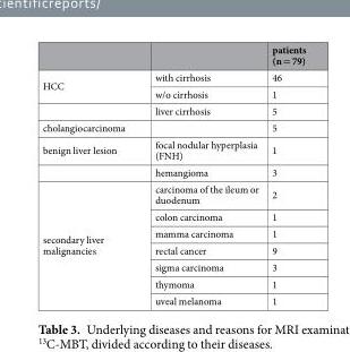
<table><thead><tr><td></td><td></td><td>patients (n = 79)</td></tr></thead><tbody><tr><td rowspan="3">HCC</td><td>with cirrhosis</td><td>46</td></tr><tr><td>w/o cirrhosis</td><td>1</td></tr><tr><td>liver cirrhosis</td><td>5</td></tr><tr><td>cholangiocarcinoma</td><td></td><td>5</td></tr><tr><td rowspan="2">benign liver lesion</td><td>focal nodular hyperplasia (FNH)</td><td>1</td></tr><tr><td>hemangioma</td><td>3</td></tr><tr><td rowspan="7">secondary liver malignancies</td><td>carcinoma of the ileum or duodenum</td><td>2</td></tr><tr><td>colon carcinoma</td><td>1</td></tr><tr><td>mamma carcinoma</td><td>1</td></tr><tr><td>rectal cancer</td><td>9</td></tr><tr><td>sigma carcinoma</td><td>3</td></tr><tr><td>thymoma</td><td>1</td></tr><tr><td>uveal melanoma</td><td>1</td></tr></tbody></table>